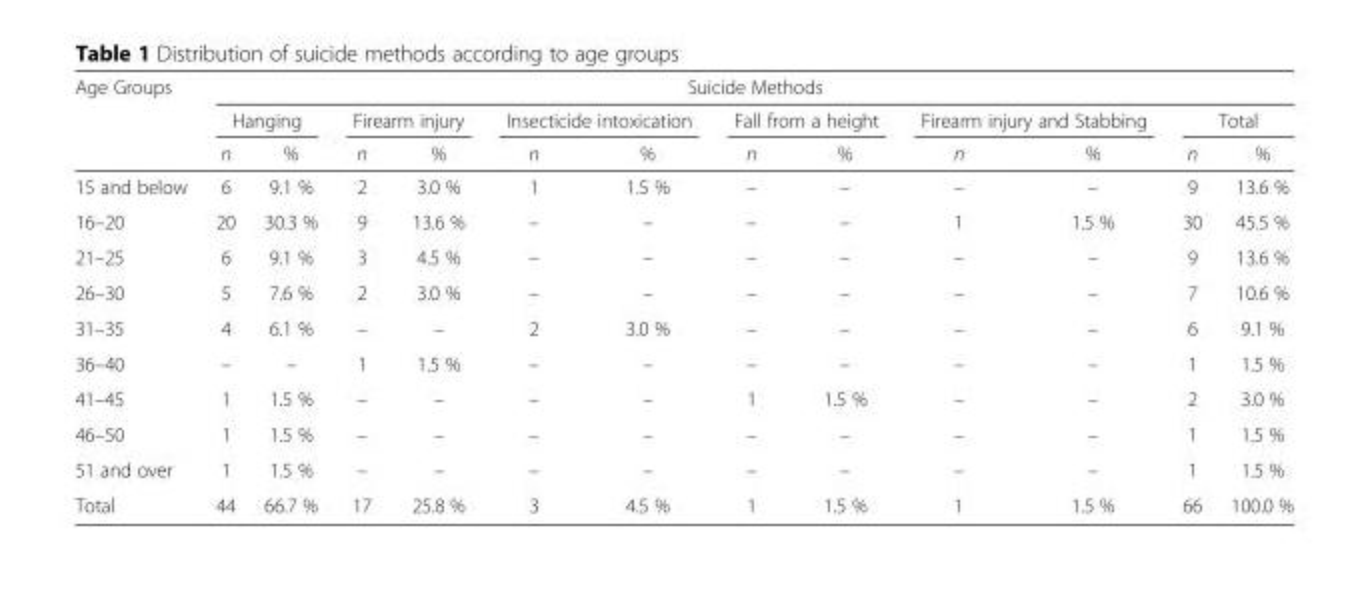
<table><thead><tr><td rowspan="3">Age Groups</td><td colspan="12">Suicide Methods</td></tr><tr><td colspan="2">Hanging</td><td colspan="2">Firearm injury</td><td colspan="2">Insecticide intoxication</td><td colspan="2">Fall from a height</td><td colspan="2">Firearm injury and Stabbing</td><td colspan="2">Total</td></tr><tr><td>n</td><td>%</td><td>n</td><td>%</td><td>n</td><td>%</td><td>n</td><td>%</td><td>n</td><td>%</td><td>n</td><td>%</td></tr></thead><tbody><tr><td>15 and below</td><td>6</td><td>9.1 %</td><td>2</td><td>3.0 %</td><td>1</td><td>1.5 %</td><td>–</td><td>–</td><td>–</td><td>–</td><td>9</td><td>13.6 %</td></tr><tr><td>16–20</td><td>20</td><td>30.3 %</td><td>9</td><td>13.6 %</td><td>–</td><td>–</td><td>–</td><td>–</td><td>1</td><td>1.5 %</td><td>30</td><td>45.5 %</td></tr><tr><td>21–25</td><td>6</td><td>9.1 %</td><td>3</td><td>4.5 %</td><td>–</td><td>–</td><td>–</td><td>–</td><td>–</td><td>–</td><td>9</td><td>13.6 %</td></tr><tr><td>26–30</td><td>5</td><td>7.6 %</td><td>2</td><td>3.0 %</td><td>–</td><td>–</td><td>–</td><td>–</td><td>–</td><td>–</td><td>7</td><td>10.6 %</td></tr><tr><td>31–35</td><td>4</td><td>6.1 %</td><td>–</td><td>–</td><td>2</td><td>3.0 %</td><td>–</td><td>–</td><td>–</td><td>–</td><td>6</td><td>9.1 %</td></tr><tr><td>36–40</td><td>–</td><td>–</td><td>1</td><td>1.5 %</td><td>–</td><td>–</td><td>–</td><td>–</td><td>–</td><td>–</td><td>1</td><td>1.5 %</td></tr><tr><td>41–45</td><td>1</td><td>1.5 %</td><td>–</td><td>–</td><td>–</td><td>–</td><td>1</td><td>1.5 %</td><td>–</td><td>–</td><td>2</td><td>3.0 %</td></tr><tr><td>46–50</td><td>1</td><td>1.5 %</td><td>–</td><td>–</td><td>–</td><td>–</td><td>–</td><td>–</td><td>–</td><td>–</td><td>1</td><td>1.5 %</td></tr><tr><td>51 and over</td><td>1</td><td>1.5 %</td><td>–</td><td>–</td><td>–</td><td>–</td><td>–</td><td>–</td><td>–</td><td>–</td><td>1</td><td>1.5 %</td></tr><tr><td>Total</td><td>44</td><td>66.7 %</td><td>17</td><td>25.8 %</td><td>3</td><td>4.5 %</td><td>1</td><td>1.5 %</td><td>1</td><td>1.5 %</td><td>66</td><td>100.0 %</td></tr></tbody></table>